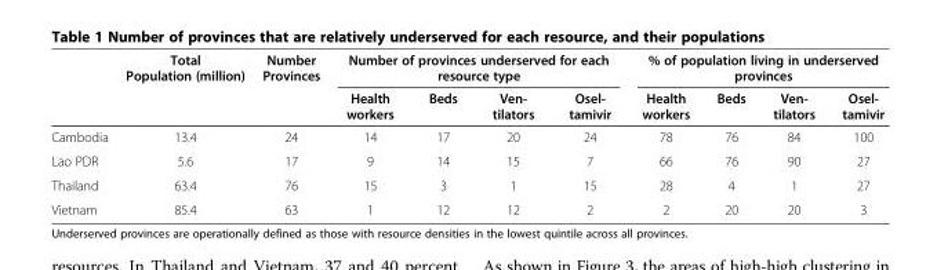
<table><thead><tr><td rowspan="2"></td><td rowspan="2">Total Population (million)</td><td rowspan="2">Number Provinces</td><td colspan="4">Number of provinces underserved for each resource type</td><td colspan="4">% of population living in underserved provinces</td></tr><tr><td>Health workers</td><td>Beds</td><td>Ven- tilators</td><td>Osel- tamivir</td><td>Health workers</td><td>Beds</td><td>Ven- tilators</td><td>Osel- tamivir</td></tr></thead><tbody><tr><td>Cambodia</td><td>13.4</td><td>24</td><td>14</td><td>17</td><td>20</td><td>24</td><td>78</td><td>76</td><td>84</td><td>100</td></tr><tr><td>Lao PDR</td><td>5.6</td><td>17</td><td>9</td><td>14</td><td>15</td><td>7</td><td>66</td><td>76</td><td>90</td><td>27</td></tr><tr><td>Thailand</td><td>63.4</td><td>76</td><td>15</td><td>3</td><td>1</td><td>15</td><td>28</td><td>4</td><td>1</td><td>27</td></tr><tr><td>Vietnam</td><td>85.4</td><td>63</td><td>1</td><td>12</td><td>12</td><td>2</td><td>2</td><td>20</td><td>20</td><td>3</td></tr></tbody></table>